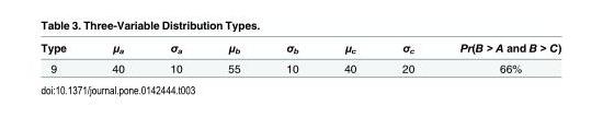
<table><thead><tr><td>Type</td><td>μ<sub>a</sub></td><td>σ<sub>a</sub></td><td>μ<sub>b</sub></td><td>σ<sub>b</sub></td><td>μ<sub>c</sub></td><td>σ<sub>c</sub></td><td>Pr(B &gt; A and B &gt; C)</td></tr></thead><tbody><tr><td>9</td><td>40</td><td>10</td><td>55</td><td>10</td><td>40</td><td>20</td><td>66%</td></tr></tbody></table>